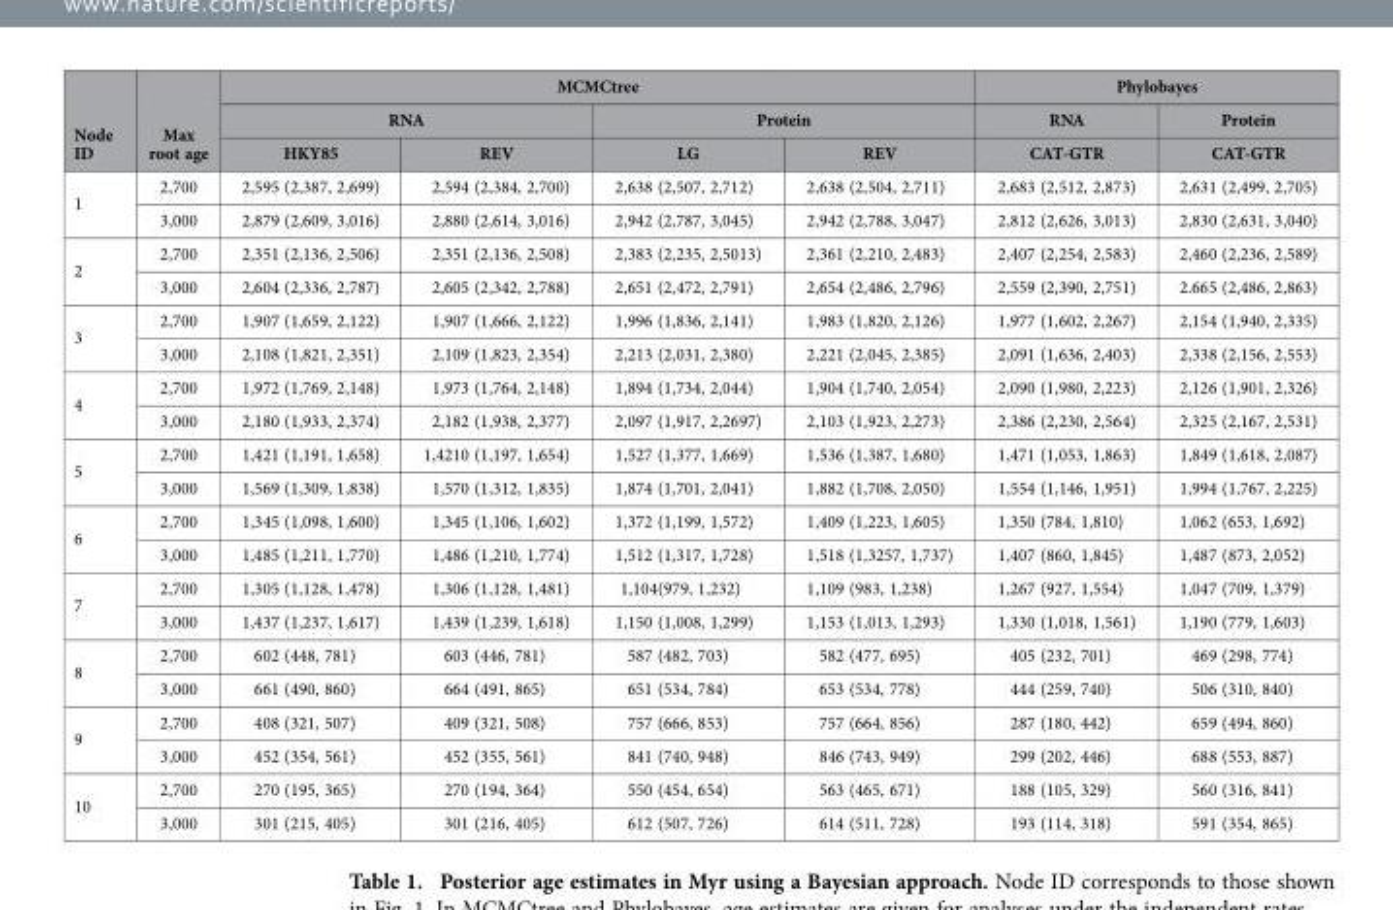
<table><thead><tr><td rowspan="3">Node ID</td><td rowspan="3">Max root age</td><td colspan="4">MCMCtree</td><td colspan="2">Phylobayes</td></tr><tr><td colspan="2">RNA</td><td colspan="2">Protein</td><td rowspan="2">RNA CAT-GTR</td><td rowspan="2">Protein CAT-GTR</td></tr><tr><td>HKY85</td><td>REV</td><td>LG</td><td>REV</td></tr></thead><tbody><tr><td rowspan="2">1</td><td>2,700</td><td>2,595 (2,387, 2,699)</td><td>2,594 (2,384, 2,700)</td><td>2,638 (2,507, 2,712)</td><td>2,638 (2,504, 2,711)</td><td>2,683 (2,512, 2,873)</td><td>2,631 (2,499, 2,705)</td></tr><tr><td>3,000</td><td>2,879 (2,609, 3,016)</td><td>2,880 (2,614, 3,016)</td><td>2,942 (2,787, 3,045)</td><td>2,942 (2,788, 3,047)</td><td>2,812 (2,626, 3,013)</td><td>2,830 (2,631, 3,040)</td></tr><tr><td rowspan="2">2</td><td>2,700</td><td>2,351 (2,136, 2,506)</td><td>2,351 (2,136, 2,508)</td><td>2,383 (2,235, 2,5013)</td><td>2,361 (2,210, 2,483)</td><td>2,407 (2,254, 2,583)</td><td>2,460 (2,236, 2,589)</td></tr><tr><td>3,000</td><td>2,604 (2,336, 2,787)</td><td>2,605 (2,342, 2,788)</td><td>2,651 (2,472, 2,791)</td><td>2,654 (2,486, 2,796)</td><td>2,559 (2,390, 2,751)</td><td>2.665 (2,486, 2,863)</td></tr><tr><td rowspan="2">3</td><td>2,700</td><td>1,907 (1,659, 2,122)</td><td>1,907 (1,666, 2,122)</td><td>1,996 (1,836, 2,141)</td><td>1,983 (1,820, 2,126)</td><td>1,977 (1,602, 2,267)</td><td>2,154 (1,940, 2,335)</td></tr><tr><td>3,000</td><td>2,108 (1,821, 2,351)</td><td>2,109 (1,823, 2,354)</td><td>2,213 (2,031, 2,380)</td><td>2,221 (2,045, 2,385)</td><td>2,091 (1,636, 2,403)</td><td>2,338 (2,156, 2,553)</td></tr><tr><td rowspan="2">4</td><td>2,700</td><td>1,972 (1,769, 2,148)</td><td>1,973 (1,764, 2,148)</td><td>1,894 (1,734, 2,044)</td><td>1,904 (1,740, 2,054)</td><td>2,090 (1,980, 2,223)</td><td>2,126 (1,901, 2,326)</td></tr><tr><td>3,000</td><td>2,180 (1,933, 2,374)</td><td>2,182 (1,938, 2,377)</td><td>2,097 (1,917, 2,2697)</td><td>2,103 (1,923, 2,273)</td><td>2,386 (2,230, 2,564)</td><td>2,325 (2,167, 2,531)</td></tr><tr><td rowspan="2">5</td><td>2,700</td><td>1,421 (1,191, 1,658)</td><td>1,4210 (1,197, 1,654)</td><td>1,527 (1,377, 1,669)</td><td>1,536 (1,387, 1,680)</td><td>1,471 (1,053, 1,863)</td><td>1,849 (1,618, 2,087)</td></tr><tr><td>3,000</td><td>1,569 (1,309, 1,838)</td><td>1,570 (1,312, 1,835)</td><td>1,874 (1,701, 2,041)</td><td>1,882 (1,708, 2,050)</td><td>1,554 (1,146, 1,951)</td><td>1,994 (1,767, 2,225)</td></tr><tr><td rowspan="2">6</td><td>2,700</td><td>1,345 (1,098, 1,600)</td><td>1,345 (1,106, 1,602)</td><td>1,372 (1,199, 1,572)</td><td>1,409 (1,223, 1,605)</td><td>1,350 (784, 1,810)</td><td>1,062 (653, 1,692)</td></tr><tr><td>3,000</td><td>1,485 (1,211, 1,770)</td><td>1,486 (1,210, 1,774)</td><td>1,512 (1,317, 1,728)</td><td>1,518 (1,3257, 1,737)</td><td>1,407 (860, 1,845)</td><td>1,487 (873, 2,052)</td></tr><tr><td rowspan="2">7</td><td>2,700</td><td>1,305 (1,128, 1,478)</td><td>1,306 (1,128, 1,481)</td><td>1,104(979, 1,232)</td><td>1,109 (983, 1,238)</td><td>1,267 (927, 1,554)</td><td>1,047 (709, 1,379)</td></tr><tr><td>3,000</td><td>1,437 (1,237, 1,617)</td><td>1,439 (1,239, 1,618)</td><td>1,150 (1,008, 1,299)</td><td>1,153 (1,013, 1,293)</td><td>1,330 (1,018, 1,561)</td><td>1,190 (779, 1,603)</td></tr><tr><td rowspan="2">8</td><td>2,700</td><td>602 (448, 781)</td><td>603 (446, 781)</td><td>587 (482, 703)</td><td>582 (477, 695)</td><td>405 (232, 701)</td><td>469 (298, 774)</td></tr><tr><td>3,000</td><td>661 (490, 860)</td><td>664 (491, 865)</td><td>651 (534, 784)</td><td>653 (534, 778)</td><td>444 (259, 740)</td><td>506 (310, 840)</td></tr><tr><td rowspan="2">9</td><td>2,700</td><td>408 (321, 507)</td><td>409 (321, 508)</td><td>757 (666, 853)</td><td>757 (664, 856)</td><td>287 (180, 442)</td><td>659 (494, 860)</td></tr><tr><td>3,000</td><td>452 (354, 561)</td><td>452 (355, 561)</td><td>841 (740, 948)</td><td>846 (743, 949)</td><td>299 (202, 446)</td><td>688 (553, 887)</td></tr><tr><td rowspan="2">10</td><td>2,700</td><td>270 (195, 365)</td><td>270 (194, 364)</td><td>550 (454, 654)</td><td>563 (465, 671)</td><td>188 (105, 329)</td><td>560 (316, 841)</td></tr><tr><td>3,000</td><td>301 (215, 405)</td><td>301 (216, 405)</td><td>612 (507, 726)</td><td>614 (511, 728)</td><td>193 (114, 318)</td><td>591 (354, 865)</td></tr></tbody></table>